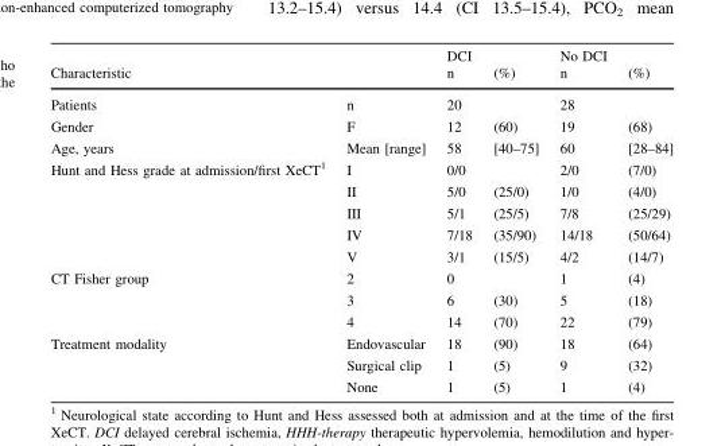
<table><thead><tr><td rowspan="2">Characteristic</td><td rowspan="2"></td><td rowspan="2">DCI n</td><td rowspan="2">(%)</td><td rowspan="2">No DCI n</td><td rowspan="2">(%)</td></tr><tr></tr></thead><tbody><tr><td>Patients</td><td>n</td><td>20</td><td></td><td>28</td><td></td></tr><tr><td>Gender</td><td>F</td><td>12</td><td>(60)</td><td>19</td><td>(68)</td></tr><tr><td>Age, years</td><td>Mean [range]</td><td>58</td><td>[40–75]</td><td>60</td><td>[28–84]</td></tr><tr><td rowspan="5">Hunt and Hess grade at admission/first XeCT<sup>1</sup></td><td>I</td><td>0/0</td><td></td><td>2/0</td><td>(7/0)</td></tr><tr><td>II</td><td>5/0</td><td>(25/0)</td><td>1/0</td><td>(4/0)</td></tr><tr><td>III</td><td>5/1</td><td>(25/5)</td><td>7/8</td><td>(25/29)</td></tr><tr><td>IV</td><td>7/18</td><td>(35/90)</td><td>14/18</td><td>(50/64)</td></tr><tr><td>V</td><td>3/1</td><td>(15/5)</td><td>4/2</td><td>(14/7)</td></tr><tr><td rowspan="3">CT Fisher group</td><td>2</td><td>0</td><td></td><td>1</td><td>(4)</td></tr><tr><td>3</td><td>6</td><td>(30)</td><td>5</td><td>(18)</td></tr><tr><td>4</td><td>14</td><td>(70)</td><td>22</td><td>(79)</td></tr><tr><td rowspan="3">Treatment modality</td><td>Endovascular</td><td>18</td><td>(90)</td><td>18</td><td>(64)</td></tr><tr><td>Surgical clip</td><td>1</td><td>(5)</td><td>9</td><td>(32)</td></tr><tr><td>None</td><td>1</td><td>(5)</td><td>1</td><td>(4)</td></tr></tbody></table>